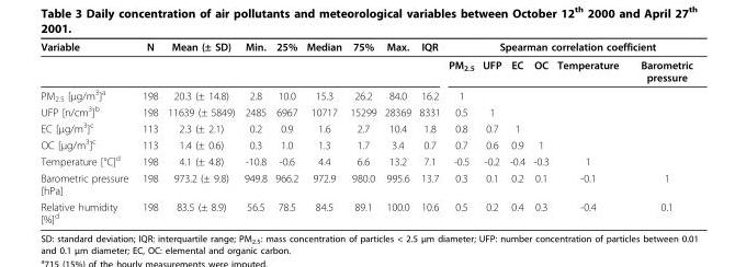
<table><thead><tr><td rowspan="2">Variable</td><td rowspan="2">N</td><td rowspan="2">Mean (± SD)</td><td rowspan="2">Min.</td><td rowspan="2">25%</td><td rowspan="2">Median</td><td rowspan="2">75%</td><td rowspan="2">Max.</td><td rowspan="2">IQR</td><td colspan="6">Spearman correlation coefficient</td></tr><tr><td>PM<sub>2.5</sub></td><td>UFP</td><td>EC</td><td>OC</td><td>Temperature</td><td>Barometric pressure</td></tr></thead><tbody><tr><td>PM<sub>2.5</sub> [μg/m<sup>3</sup>]<sup>a</sup></td><td>198</td><td>20.3 (± 14.8)</td><td>2.8</td><td>10.0</td><td>15.3</td><td>26.2</td><td>84.0</td><td>16.2</td><td>1</td><td></td><td></td><td></td><td></td><td></td></tr><tr><td>UFP [n/cm<sup>3</sup>]<sup>b</sup></td><td>198</td><td>11639 (± 5849)</td><td>2485</td><td>6967</td><td>10717</td><td>15299</td><td>28369</td><td>8331</td><td>0.5</td><td>1</td><td></td><td></td><td></td><td></td></tr><tr><td>EC [μg/m<sup>3</sup>]<sup>c</sup></td><td>113</td><td>2.3 (± 2.1)</td><td>0.2</td><td>0.9</td><td>1.6</td><td>2.7</td><td>10.4</td><td>1.8</td><td>0.8</td><td>0.7</td><td>1</td><td></td><td></td><td></td></tr><tr><td>OC [μg/m<sup>3</sup>]<sup>c</sup></td><td>113</td><td>1.4 (± 0.6)</td><td>0.3</td><td>1.0</td><td>1.3</td><td>1.7</td><td>3.4</td><td>0.7</td><td>0.7</td><td>0.6</td><td>0.9</td><td>1</td><td></td><td></td></tr><tr><td>Temperature [°C]<sup>d</sup></td><td>198</td><td>4.1 (± 4.8)</td><td>-10.8</td><td>-0.6</td><td>4.4</td><td>6.6</td><td>13.2</td><td>7.1</td><td>-0.5</td><td>-0.2</td><td>-0.4</td><td>-0.3</td><td>1</td><td></td></tr><tr><td>Barometric pressure [hPa]</td><td>198</td><td>973.2 (± 9.8)</td><td>949.8</td><td>966.2</td><td>972.9</td><td>980.0</td><td>995.6</td><td>13.7</td><td>0.3</td><td>0.1</td><td>0.2</td><td>0.1</td><td>-0.1</td><td>1</td></tr><tr><td>Relative humidity [%]<sup>d</sup></td><td>198</td><td>83.5 (± 8.9)</td><td>56.5</td><td>78.5</td><td>84.5</td><td>89.1</td><td>100.0</td><td>10.6</td><td>0.5</td><td>0.2</td><td>0.4</td><td>0.3</td><td>-0.4</td><td>0.1</td></tr></tbody></table>